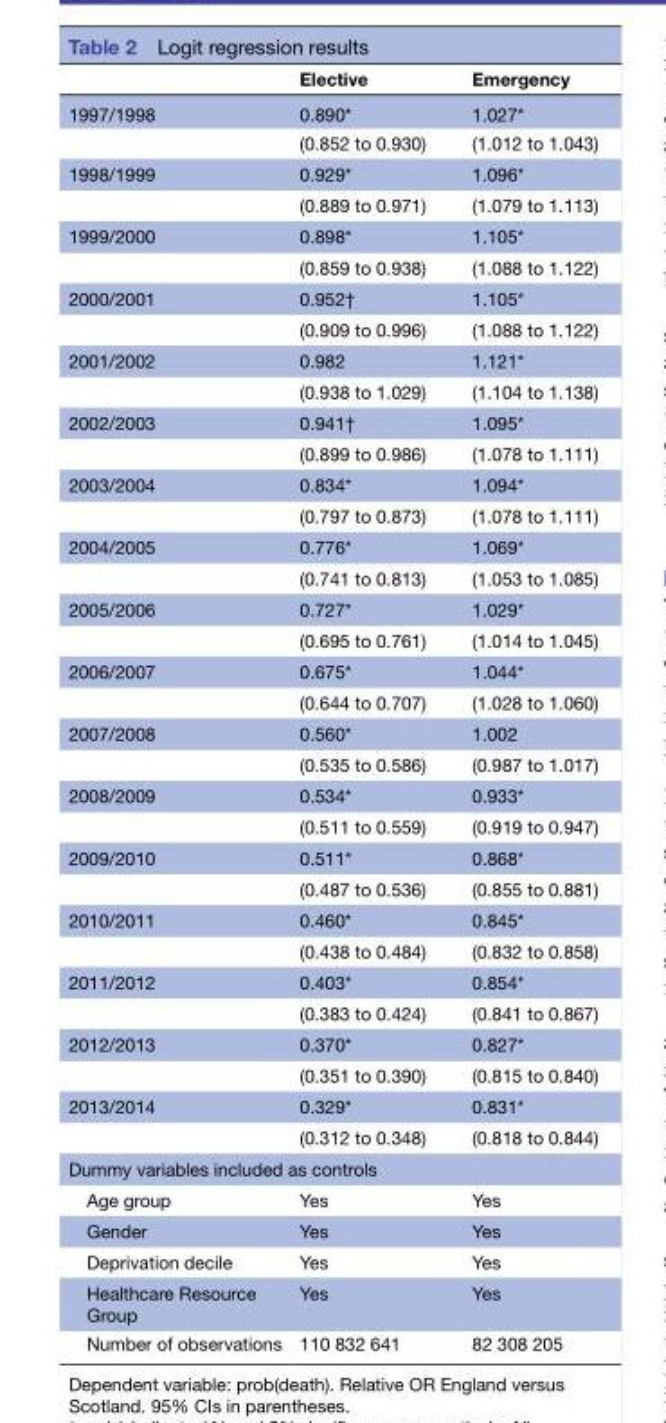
<table><thead><tr><td></td><td>Elective</td><td>Emergency</td></tr></thead><tbody><tr><td rowspan="2">1997/1998</td><td>0.890*</td><td>1.027*</td></tr><tr><td>(0.852 to 0.930)</td><td>(1.012 to 1.043)</td></tr><tr><td rowspan="2">1998/1999</td><td>0.929*</td><td>1.096*</td></tr><tr><td>(0.889 to 0.971)</td><td>(1.079 to 1.113)</td></tr><tr><td rowspan="2">1999/2000</td><td>0.898*</td><td>1.105*</td></tr><tr><td>(0.859 to 0.938)</td><td>(1.088 to 1.122)</td></tr><tr><td rowspan="2">2000/2001</td><td>0.952†</td><td>1.105*</td></tr><tr><td>(0.909 to 0.996)</td><td>(1.088 to 1.122)</td></tr><tr><td rowspan="2">2001/2002</td><td>0.982</td><td>1.121*</td></tr><tr><td>(0.938 to 1.029)</td><td>(1.104 to 1.138)</td></tr><tr><td rowspan="2">2002/2003</td><td>0.941†</td><td>1.095*</td></tr><tr><td>(0.899 to 0.986)</td><td>(1.078 to 1.111)</td></tr><tr><td rowspan="2">2003/2004</td><td>0.834*</td><td>1.094*</td></tr><tr><td>(0.797 to 0.873)</td><td>(1.078 to 1.111)</td></tr><tr><td rowspan="2">2004/2005</td><td>0.776*</td><td>1.069*</td></tr><tr><td>(0.741 to 0.813)</td><td>(1.053 to 1.085)</td></tr><tr><td rowspan="2">2005/2006</td><td>0.727*</td><td>1.029*</td></tr><tr><td>(0.695 to 0.761)</td><td>(1.014 to 1.045)</td></tr><tr><td rowspan="2">2006/2007</td><td>0.675*</td><td>1.044*</td></tr><tr><td>(0.644 to 0.707)</td><td>(1.028 to 1.060)</td></tr><tr><td rowspan="2">2007/2008</td><td>0.560*</td><td>1.002</td></tr><tr><td>(0.535 to 0.586)</td><td>(0.987 to 1.017)</td></tr><tr><td rowspan="2">2008/2009</td><td>0.534*</td><td>0.933*</td></tr><tr><td>(0.511 to 0.559)</td><td>(0.919 to 0.947)</td></tr><tr><td rowspan="2">2009/2010</td><td>0.511*</td><td>0.868*</td></tr><tr><td>(0.487 to 0.536)</td><td>(0.855 to 0.881)</td></tr><tr><td rowspan="2">2010/2011</td><td>0.460*</td><td>0.845*</td></tr><tr><td>(0.438 to 0.484)</td><td>(0.832 to 0.858)</td></tr><tr><td rowspan="2">2011/2012</td><td>0.403*</td><td>0.854*</td></tr><tr><td>(0.383 to 0.424)</td><td>(0.841 to 0.867)</td></tr><tr><td rowspan="2">2012/2013</td><td>0.370*</td><td>0.827*</td></tr><tr><td>(0.351 to 0.390)</td><td>(0.815 to 0.840)</td></tr><tr><td rowspan="2">2013/2014</td><td>0.329*</td><td>0.831*</td></tr><tr><td>(0.312 to 0.348)</td><td>(0.818 to 0.844)</td></tr><tr><td colspan="3">Dummy variables included as controls</td></tr><tr><td>Age group</td><td>Yes</td><td>Yes</td></tr><tr><td>Gender</td><td>Yes</td><td>Yes</td></tr><tr><td>Deprivation decile</td><td>Yes</td><td>Yes</td></tr><tr><td>Healthcare Resource Group</td><td>Yes</td><td>Yes</td></tr><tr><td>Number of observations</td><td>110 832 641</td><td>82 308 205</td></tr></tbody></table>